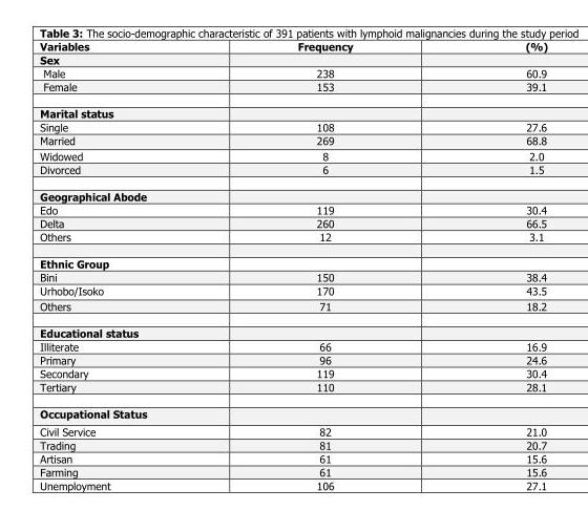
<table><thead><tr><td>Variables</td><td>Frequency</td><td>(%)</td></tr></thead><tbody><tr><td colspan="3">Sex</td></tr><tr><td>Male</td><td>238</td><td>60.9</td></tr><tr><td>Female</td><td>153</td><td>39.1</td></tr><tr><td colspan="3">Marital status</td></tr><tr><td>Single</td><td>108</td><td>27.6</td></tr><tr><td>Married</td><td>269</td><td>68.8</td></tr><tr><td>Widowed</td><td>8</td><td>2.0</td></tr><tr><td>Divorced</td><td>6</td><td>1.5</td></tr><tr><td colspan="3">Geographical Abode</td></tr><tr><td>Edo</td><td>119</td><td>30.4</td></tr><tr><td>Delta</td><td>260</td><td>66.5</td></tr><tr><td>Others</td><td>12</td><td>3.1</td></tr><tr><td colspan="3">Ethnic Group</td></tr><tr><td>Bini</td><td>150</td><td>38.4</td></tr><tr><td>Urhobo/Isoko</td><td>170</td><td>43.5</td></tr><tr><td>Others</td><td>71</td><td>18.2</td></tr><tr><td colspan="3">Educational status</td></tr><tr><td>Illiterate</td><td>66</td><td>16.9</td></tr><tr><td>Primary</td><td>96</td><td>24.6</td></tr><tr><td>Secondary</td><td>119</td><td>30.4</td></tr><tr><td>Tertiary</td><td>110</td><td>28.1</td></tr><tr><td colspan="3">Occupational Status</td></tr><tr><td>Civil Service</td><td>82</td><td>21.0</td></tr><tr><td>Trading</td><td>81</td><td>20.7</td></tr><tr><td>Artisan</td><td>61</td><td>15.6</td></tr><tr><td>Farming</td><td>61</td><td>15.6</td></tr><tr><td>Unemployment</td><td>106</td><td>27.1</td></tr></tbody></table>